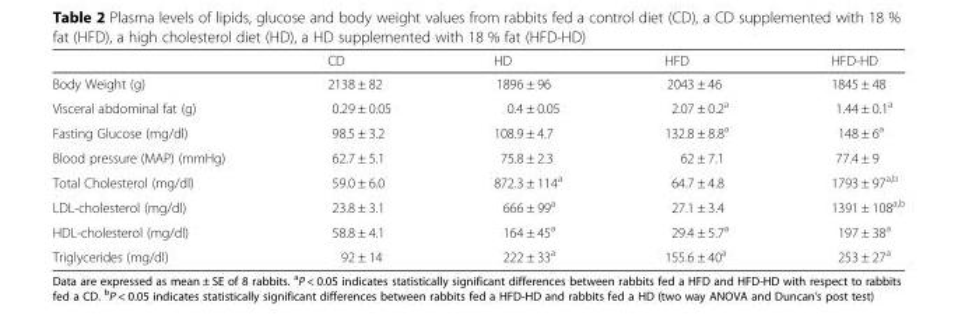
<table><thead><tr><td></td><td>CD</td><td>HD</td><td>HFD</td><td>HFD-HD</td></tr></thead><tbody><tr><td>Body Weight (g)</td><td>2138 ± 82</td><td>1896 ± 96</td><td>2043 ± 46</td><td>1845 ± 48</td></tr><tr><td>Visceral abdominal fat (g)</td><td>0.29 ± 0.05</td><td>0.4 ± 0.05</td><td>2.07 ± 0.2<sup>a</sup></td><td>1.44 ± 0.1<sup>a</sup></td></tr><tr><td>Fasting Glucose (mg/dl)</td><td>98.5 ± 3.2</td><td>108.9 ± 4.7</td><td>132.8 ± 8.8<sup>a</sup></td><td>148 ± 6<sup>a</sup></td></tr><tr><td>Blood pressure (MAP) (mmHg)</td><td>62.7 ± 5.1</td><td>75.8 ± 2.3</td><td>62 ± 7.1</td><td>77.4 ± 9</td></tr><tr><td>Total Cholesterol (mg/dl)</td><td>59.0 ± 6.0</td><td>872.3 ± 114<sup>a</sup></td><td>64.7 ± 4.8</td><td>1793 ± 97<sup>a,b</sup></td></tr><tr><td>LDL-cholesterol (mg/dl)</td><td>23.8 ± 3.1</td><td>666 ± 99<sup>a</sup></td><td>27.1 ± 3.4</td><td>1391 ± 108<sup>a,b</sup></td></tr><tr><td>HDL-cholesterol (mg/dl)</td><td>58.8 ± 4.1</td><td>164 ± 45<sup>a</sup></td><td>29.4 ± 5.7<sup>a</sup></td><td>197 ± 38<sup>a</sup></td></tr><tr><td>Triglycerides (mg/dl)</td><td>92 ± 14</td><td>222 ± 33<sup>a</sup></td><td>155.6 ± 40<sup>a</sup></td><td>253 ± 27<sup>a</sup></td></tr></tbody></table>